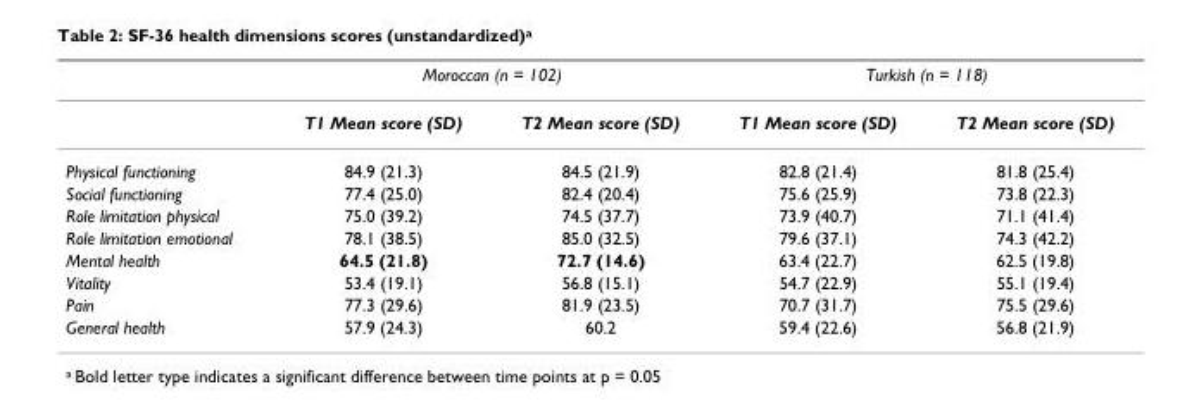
<table><thead><tr><td rowspan="2"></td><td colspan="2">Moroccan (n = 102)</td><td colspan="2">Turkish (n = 118)</td></tr><tr><td>T1 Mean score (SD)</td><td>T2 Mean score (SD)</td><td>T1 Mean score (SD)</td><td>T2 Mean score (SD)</td></tr></thead><tbody><tr><td>Physical functioning</td><td>84.9 (21.3)</td><td>84.5 (21.9)</td><td>82.8 (21.4)</td><td>81.8 (25.4)</td></tr><tr><td>Social functioning</td><td>77.4 (25.0)</td><td>82.4 (20.4)</td><td>75.6 (25.9)</td><td>73.8 (22.3)</td></tr><tr><td>Role limitation physical</td><td>75.0 (39.2)</td><td>74.5 (37.7)</td><td>73.9 (40.7)</td><td>71.1 (41.4)</td></tr><tr><td>Role limitation emotional</td><td>78.1 (38.5)</td><td>85.0 (32.5)</td><td>79.6 (37.1)</td><td>74.3 (42.2)</td></tr><tr><td>Mental health</td><td>64.5 (21.8)</td><td>72.7 (14.6)</td><td>63.4 (22.7)</td><td>62.5 (19.8)</td></tr><tr><td>Vitality</td><td>53.4 (19.1)</td><td>56.8 (15.1)</td><td>54.7 (22.9)</td><td>55.1 (19.4)</td></tr><tr><td>Pain</td><td>77.3 (29.6)</td><td>81.9 (23.5)</td><td>70.7 (31.7)</td><td>75.5 (29.6)</td></tr><tr><td>General health</td><td>57.9 (24.3)</td><td>60.2</td><td>59.4 (22.6)</td><td>56.8 (21.9)</td></tr></tbody></table>